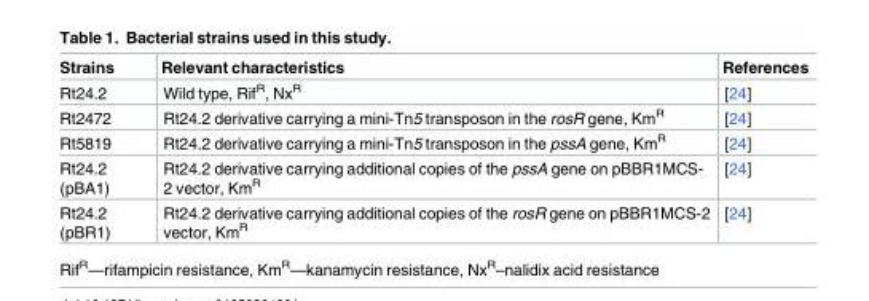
<table><thead><tr><td>Strains</td><td>Relevant characteristics</td><td>References</td></tr></thead><tbody><tr><td>Rt24.2</td><td>Wild type, Rif<sup>R</sup>, Nx<sup>R</sup></td><td>[24]</td></tr><tr><td>Rt2472</td><td>Rt24.2 derivative carrying a mini-Tn5 transposon in the rosR gene, Km<sup>R</sup></td><td>[24]</td></tr><tr><td>Rt5819</td><td>Rt24.2 derivative carrying a mini-Tn5 transposon in the pssA gene, Km<sup>R</sup></td><td>[24]</td></tr><tr><td>Rt24.2 (pBA1)</td><td>Rt24.2 derivative carrying additional copies of the pssA gene on pBBR1MCS- 2 vector, Km<sup>R</sup></td><td>[24]</td></tr><tr><td>Rt24.2 (pBR1)</td><td>Rt24.2 derivative carrying additional copies of the rosR gene on pBBR1MCS-2 vector, Km<sup>R</sup></td><td>[24]</td></tr></tbody></table>